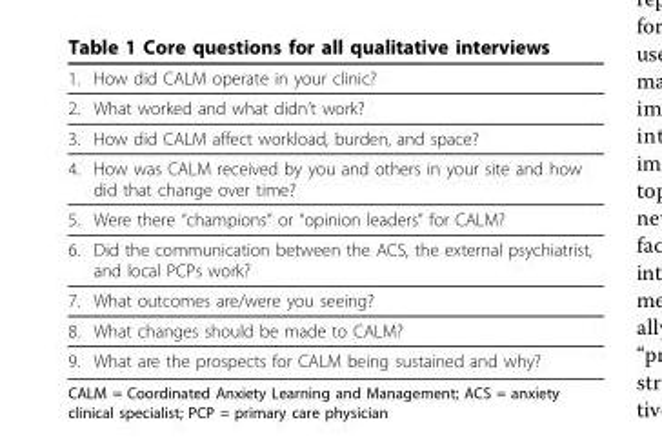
<table><thead><tr><td>1.</td><td>How did CALM operate in your clinic?</td></tr></thead><tbody><tr><td>2.</td><td>What worked and what didn’t work?</td></tr><tr><td>3.</td><td>How did CALM affect workload, burden, and space?</td></tr><tr><td>4.</td><td>How was CALM received by you and others in your site and how did that change over time?</td></tr><tr><td>5.</td><td>Were there “champions” or “opinion leaders” for CALM?</td></tr><tr><td>6.</td><td>Did the communication between the ACS, the external psychiatrist, and local PCPs work?</td></tr><tr><td>7.</td><td>What outcomes are/were you seeing?</td></tr><tr><td>8.</td><td>What changes should be made to CALM?</td></tr><tr><td>9.</td><td>What are the prospects for CALM being sustained and why?</td></tr></tbody></table>